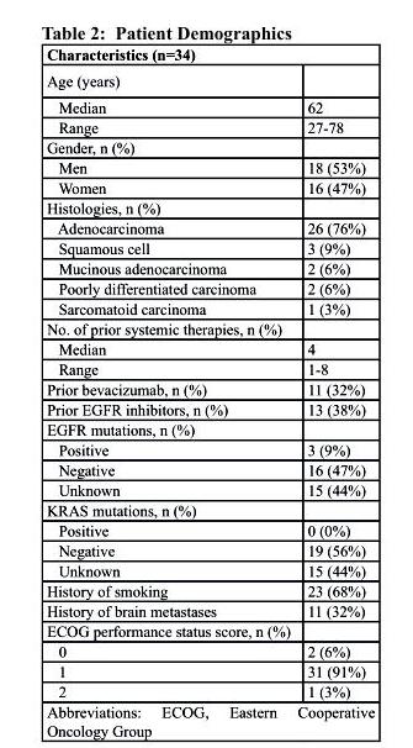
<table><thead><tr><td colspan="2">characteristics (n=34)</td></tr><tr><td>Age (years)</td><td></td></tr></thead><tbody><tr><td>Median</td><td>62</td></tr><tr><td>Range</td><td>27-78</td></tr><tr><td colspan="2">Gender, n (%)</td></tr><tr><td>Men</td><td>18 (53%)</td></tr><tr><td>Women</td><td>16 (47%)</td></tr><tr><td colspan="2">Histologies, n (%)</td></tr><tr><td>Adenocarcinoma</td><td>26 (76%)</td></tr><tr><td>Squamous cell</td><td>3 (9%)</td></tr><tr><td>Mucinous adenocarcinoma</td><td>2 (6%)</td></tr><tr><td>Poorly differentiated carcinoma</td><td>2 (6%)</td></tr><tr><td>Sarcomatoid carcinoma</td><td>1 (3%)</td></tr><tr><td colspan="2">No. of prior systemic therapies, n (%)</td></tr><tr><td>Median</td><td>4</td></tr><tr><td>Range</td><td>1-8</td></tr><tr><td>Prior bevacizumab, n (%)</td><td>11 (32%)</td></tr><tr><td>Prior EGFR inhibitors, n (%)</td><td>13 (38%)</td></tr><tr><td colspan="2">EGFR mutations, n (%)</td></tr><tr><td>Positive</td><td>3 (9%)</td></tr><tr><td>Negative</td><td>16 (47%)</td></tr><tr><td>Unknown</td><td>15 (44%)</td></tr><tr><td colspan="2">KRAS mutations, n (%)</td></tr><tr><td>Positive</td><td>0 (0%)</td></tr><tr><td>Negative</td><td>19 (56%)</td></tr><tr><td>Unknown</td><td>15 (44%)</td></tr><tr><td>History of smoking</td><td>23 (68%)</td></tr><tr><td>History of brain metastases</td><td>11 (32%)</td></tr><tr><td colspan="2">ECOG performance status score, n (%)</td></tr><tr><td>0</td><td>2 (6%)</td></tr><tr><td>1</td><td>31 (91%)</td></tr><tr><td>2</td><td>1 (3%)</td></tr></tbody></table>